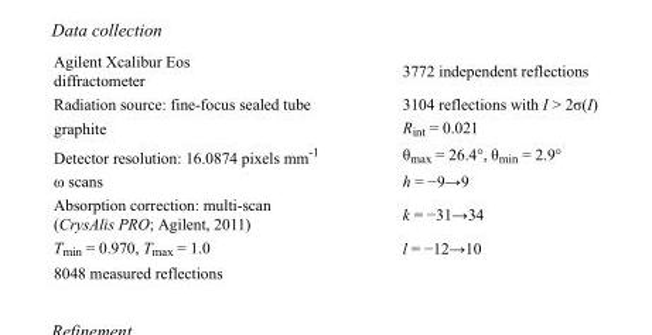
<table><tbody><tr><td>Agilent Xcalibur Eos diffractometer</td><td>3772 independent reflections</td></tr><tr><td>Radiation source: fine-focus sealed tube</td><td>3104 reflections with I &gt; 2σ(I)</td></tr><tr><td>graphite</td><td>R<sub>int</sub> = 0.021</td></tr><tr><td>Detector resolution: 16.0874 pixels mm<sup>-1</sup></td><td>θ<sub>max</sub> = 26.4°, θ<sub>min</sub> = 2.9°</td></tr><tr><td>ω scans</td><td>h = −9→9</td></tr><tr><td>Absorption correction: multi-scan (CrysAlis PRO; Agilent, 2011)</td><td>k = −31→34</td></tr><tr><td>T<sub>min</sub> = 0.970, T<sub>max</sub> = 1.0</td><td>l = −12→10</td></tr><tr><td>8048 measured reflections</td><td></td></tr></tbody></table>